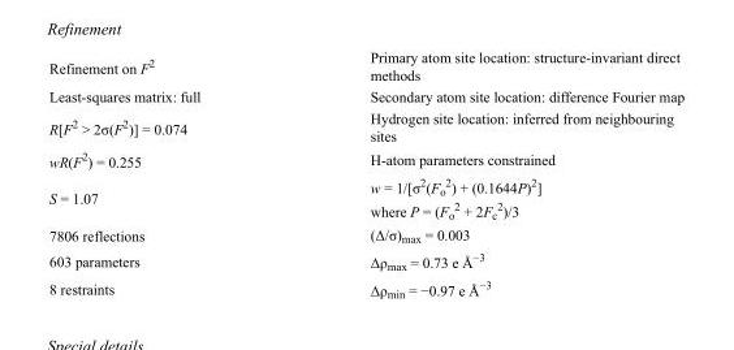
<table><tbody><tr><td>Refinement on F<sup>2</sup></td><td>Primary atom site location: structure-invariant direct methods</td></tr><tr><td>Least-squares matrix: full</td><td>Secondary atom site location: difference Fourier map</td></tr><tr><td>R[F<sup>2</sup> &gt; 2σ(F<sup>2</sup>)] = 0.074</td><td>Hydrogen site location: inferred from neighbouring sites</td></tr><tr><td>wR(F<sup>2</sup>) = 0.255</td><td>H-atom parameters constrained</td></tr><tr><td>S = 1.07</td><td>w = 1/[σ<sup>2</sup>(F<sub>o</sub> <sup>2</sup>) + (0.1644P)<sup>2</sup>] where P = (F<sub>o</sub> <sup>2</sup> + 2F<sub>c</sub> <sup>2</sup>)/3</td></tr><tr><td>7806 reflections</td><td>(Δ/σ)<sub>max</sub> = 0.003</td></tr><tr><td>603 parameters</td><td>Δρ<sub>max</sub> = 0.73 e Å<sup>−3</sup></td></tr><tr><td>8 restraints</td><td>Δρ<sub>min</sub> = −0.97 e Å<sup>−3</sup></td></tr></tbody></table>